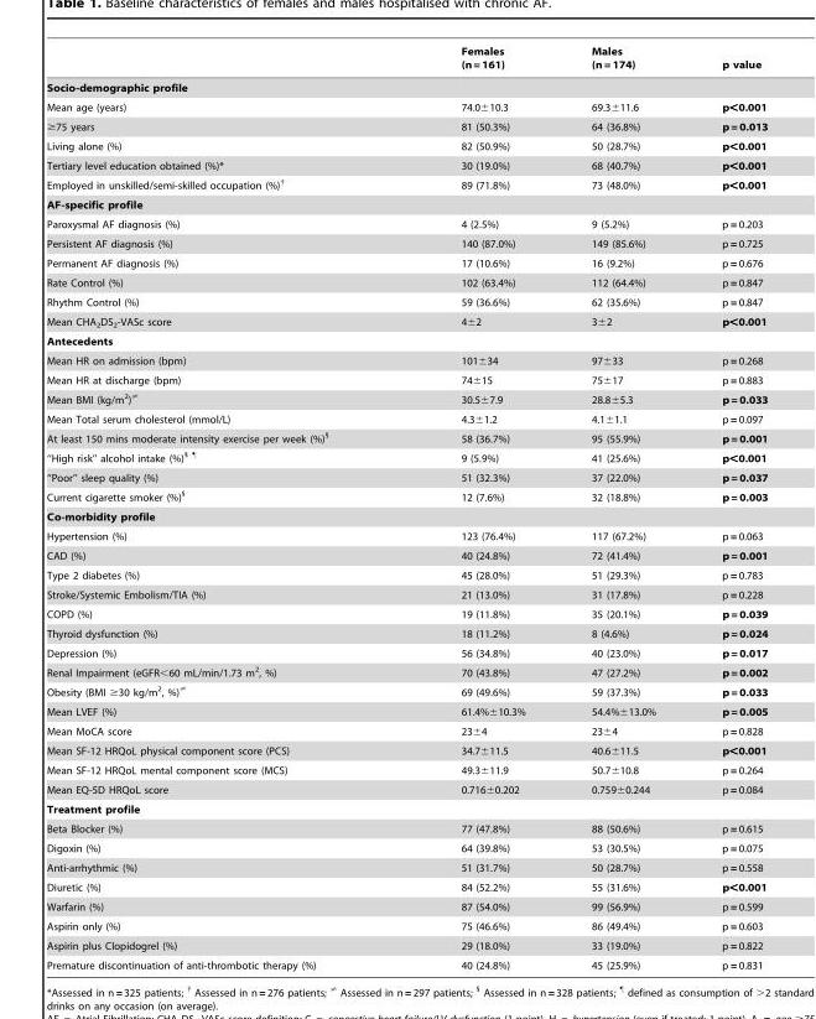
<table><thead><tr><td></td><td>Females (n = 161)</td><td>Males (n = 174)</td><td>p value</td></tr></thead><tbody><tr><td colspan="4">Socio-demographic profile</td></tr><tr><td>Mean age (years)</td><td>74.0±10.3</td><td>69.3±11.6</td><td>p&lt;0.001</td></tr><tr><td>≥75 years</td><td>81 (50.3%)</td><td>64 (36.8%)</td><td>p = 0.013</td></tr><tr><td>Living alone (%)</td><td>82 (50.9%)</td><td>50 (28.7%)</td><td>p&lt;0.001</td></tr><tr><td>Tertiary level education obtained (%)*</td><td>30 (19.0%)</td><td>68 (40.7%)</td><td>p&lt;0.001</td></tr><tr><td>Employed in unskilled/semi-skilled occupation (%)<sup>†</sup></td><td>89 (71.8%)</td><td>73 (48.0%)</td><td>p&lt;0.001</td></tr><tr><td colspan="4">AF-specific profile</td></tr><tr><td>Paroxysmal AF diagnosis (%)</td><td>4 (2.5%)</td><td>9 (5.2%)</td><td>p = 0.203</td></tr><tr><td>Persistent AF diagnosis (%)</td><td>140 (87.0%)</td><td>149 (85.6%)</td><td>p = 0.725</td></tr><tr><td>Permanent AF diagnosis (%)</td><td>17 (10.6%)</td><td>16 (9.2%)</td><td>p = 0.676</td></tr><tr><td>Rate Control (%)</td><td>102 (63.4%)</td><td>112 (64.4%)</td><td>p = 0.847</td></tr><tr><td>Rhythm Control (%)</td><td>59 (36.6%)</td><td>62 (35.6%)</td><td>p = 0.847</td></tr><tr><td>Mean CHA<sub>2</sub>DS<sub>2</sub>-VASc score</td><td>4±2</td><td>3±2</td><td>p&lt;0.001</td></tr><tr><td colspan="4">Antecedents</td></tr><tr><td>Mean HR on admission (bpm)</td><td>101±34</td><td>97±33</td><td>p = 0.268</td></tr><tr><td>Mean HR at discharge (bpm)</td><td>74±15</td><td>75±17</td><td>p = 0.883</td></tr><tr><td>Mean BMI (kg/m<sup>2</sup>)<sup>≠</sup></td><td>30.5±7.9</td><td>28.8±5.3</td><td>p = 0.033</td></tr><tr><td>Mean Total serum cholesterol (mmol/L)</td><td>4.3±1.2</td><td>4.1±1.1</td><td>p = 0.097</td></tr><tr><td>At least 150 mins moderate intensity exercise per week (%)<sup>§</sup></td><td>58 (36.7%)</td><td>95 (55.9%)</td><td>p = 0.001</td></tr><tr><td>‘‘High risk’’ alcohol intake (%)1 &quot;</td><td>9 (5.9%)</td><td>41 (25.6%)</td><td>p&lt;0.001</td></tr><tr><td>‘‘Poor’’ sleep quality (%)</td><td>51 (32.3%)</td><td>37 (22.0%)</td><td>p = 0.037</td></tr><tr><td>Current cigarette smoker (%)<sup>§</sup></td><td>12 (7.6%)</td><td>32 (18.8%)</td><td>p = 0.003</td></tr><tr><td colspan="4">Co-morbidity profile</td></tr><tr><td>Hypertension (%)</td><td>123 (76.4%)</td><td>117 (67.2%)</td><td>p = 0.063</td></tr><tr><td>CAD (%)</td><td>40 (24.8%)</td><td>72 (41.4%)</td><td>p = 0.001</td></tr><tr><td>Type 2 diabetes (%)</td><td>45 (28.0%)</td><td>51 (29.3%)</td><td>p = 0.783</td></tr><tr><td>Stroke/Systemic Embolism/TIA (%)</td><td>21 (13.0%)</td><td>31 (17.8%)</td><td>p = 0.228</td></tr><tr><td>COPD (%)</td><td>19 (11.8%)</td><td>35 (20.1%)</td><td>p = 0.039</td></tr><tr><td>Thyroid dysfunction (%)</td><td>18 (11.2%)</td><td>8 (4.6%)</td><td>p = 0.024</td></tr><tr><td>Depression (%)</td><td>56 (34.8%)</td><td>40 (23.0%)</td><td>p = 0.017</td></tr><tr><td>Renal Impairment (eGFR&lt;60 mL/min/1.73 m<sup>2</sup>, %)</td><td>70 (43.8%)</td><td>47 (27.2%)</td><td>p = 0.002</td></tr><tr><td>Obesity (BMI ≥30 kg/m<sup>2</sup>, %)<sup>≠</sup></td><td>69 (49.6%)</td><td>59 (37.3%)</td><td>p = 0.033</td></tr><tr><td>Mean LVEF (%)</td><td>61.4%±10.3%</td><td>54.4%±13.0%</td><td>p = 0.005</td></tr><tr><td>Mean MoCA score</td><td>23±4</td><td>23±4</td><td>p = 0.828</td></tr><tr><td>Mean SF-12 HRQoL physical component score (PCS)</td><td>34.7±11.5</td><td>40.6±11.5</td><td>p&lt;0.001</td></tr><tr><td>Mean SF-12 HRQoL mental component score (MCS)</td><td>49.3±11.9</td><td>50.7±10.8</td><td>p = 0.264</td></tr><tr><td>Mean EQ-5D HRQoL score</td><td>0.716±0.202</td><td>0.759±0.244</td><td>p = 0.084</td></tr><tr><td colspan="4">Treatment profile</td></tr><tr><td>Beta Blocker (%)</td><td>77 (47.8%)</td><td>88 (50.6%)</td><td>p = 0.615</td></tr><tr><td>Digoxin (%)</td><td>64 (39.8%)</td><td>53 (30.5%)</td><td>p = 0.075</td></tr><tr><td>Anti-arrhythmic (%)</td><td>51 (31.7%)</td><td>50 (28.7%)</td><td>p = 0.558</td></tr><tr><td>Diuretic (%)</td><td>84 (52.2%)</td><td>55 (31.6%)</td><td>p&lt;0.001</td></tr><tr><td>Warfarin (%)</td><td>87 (54.0%)</td><td>99 (56.9%)</td><td>p = 0.599</td></tr><tr><td>Aspirin only (%)</td><td>75 (46.6%)</td><td>86 (49.4%)</td><td>p = 0.603</td></tr><tr><td>Aspirin plus Clopidogrel (%)</td><td>29 (18.0%)</td><td>33 (19.0%)</td><td>p = 0.822</td></tr><tr><td>Premature discontinuation of anti-thrombotic therapy (%)</td><td>40 (24.8%)</td><td>45 (25.9%)</td><td>p = 0.831</td></tr></tbody></table>